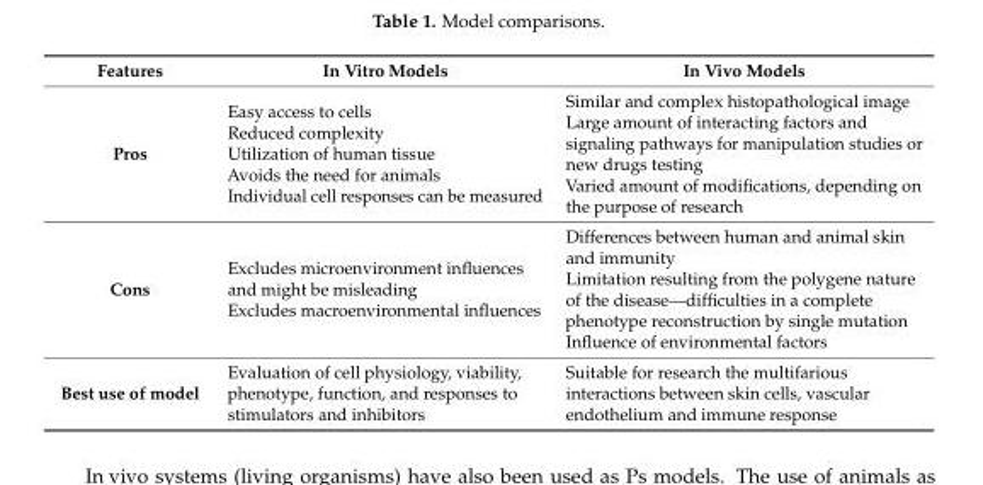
<table><thead><tr><td>Features</td><td>In Vitro Models</td><td>In Vivo Models</td></tr></thead><tbody><tr><td>Pros</td><td>Easy access to cells Reduced complexity Utilization of human tissue Avoids the need for animals Individual cell responses can be measured</td><td>Similar and complex histopathological image Large amount of interacting factors and signaling pathways for manipulation studies or new drugs testing Varied amount of modifications, depending on the purpose of research</td></tr><tr><td>Cons</td><td>Excludes microenvironment influences and might be misleading Excludes macroenvironmental influences</td><td>Differences between human and animal skin and immunity Limitation resulting from the polygene nature of the disease—difficulties in a complete phenotype reconstruction by single mutation Influence of environmental factors</td></tr><tr><td>Best use of model</td><td>Evaluation of cell physiology, viability, phenotype, function, and responses to stimulators and inhibitors</td><td>Suitable for research the multifarious interactions between skin cells, vascular endothelium and immune response</td></tr></tbody></table>